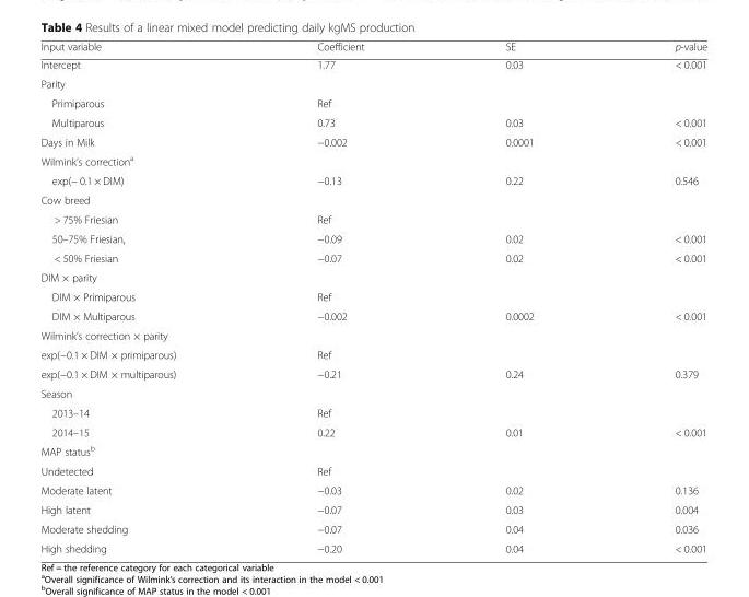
<table><thead><tr><td>Input variable</td><td>Coefficient</td><td>SE</td><td>p-value</td></tr></thead><tbody><tr><td>Intercept</td><td>1.77</td><td>0.03</td><td>&lt; 0.001</td></tr><tr><td colspan="4">Parity</td></tr><tr><td>Primiparous</td><td>Ref</td><td></td><td></td></tr><tr><td>Multiparous</td><td>0.73</td><td>0.03</td><td>&lt; 0.001</td></tr><tr><td>Days in Milk</td><td>−0.002</td><td>0.0001</td><td>&lt; 0.001</td></tr><tr><td colspan="4">Wilmink’s correction<sup>a</sup></td></tr><tr><td>exp(− 0.1 × DIM)</td><td>−0.13</td><td>0.22</td><td>0.546</td></tr><tr><td colspan="4">Cow breed</td></tr><tr><td>&gt; 75% Friesian</td><td>Ref</td><td></td><td></td></tr><tr><td>50–75% Friesian,</td><td>−0.09</td><td>0.02</td><td>&lt; 0.001</td></tr><tr><td>&lt; 50% Friesian</td><td>−0.07</td><td>0.02</td><td>&lt; 0.001</td></tr><tr><td colspan="4">DIM × parity</td></tr><tr><td>DIM × Primiparous</td><td>Ref</td><td></td><td></td></tr><tr><td>DIM × Multiparous</td><td>−0.002</td><td>0.0002</td><td>&lt; 0.001</td></tr><tr><td colspan="4">Wilmink’s correction × parity</td></tr><tr><td>exp(−0.1 × DIM × primiparous)</td><td>Ref</td><td></td><td></td></tr><tr><td>exp(−0.1 × DIM × multiparous)</td><td>−0.21</td><td>0.24</td><td>0.379</td></tr><tr><td colspan="4">Season</td></tr><tr><td>2013–14</td><td>Ref</td><td></td><td></td></tr><tr><td>2014–15</td><td>0.22</td><td>0.01</td><td>&lt; 0.001</td></tr><tr><td colspan="4">MAP status<sup>b</sup></td></tr><tr><td>Undetected</td><td>Ref</td><td></td><td></td></tr><tr><td>Moderate latent</td><td>−0.03</td><td>0.02</td><td>0.136</td></tr><tr><td>High latent</td><td>−0.07</td><td>0.03</td><td>0.004</td></tr><tr><td>Moderate shedding</td><td>−0.07</td><td>0.04</td><td>0.036</td></tr><tr><td>High shedding</td><td>−0.20</td><td>0.04</td><td>&lt; 0.001</td></tr></tbody></table>